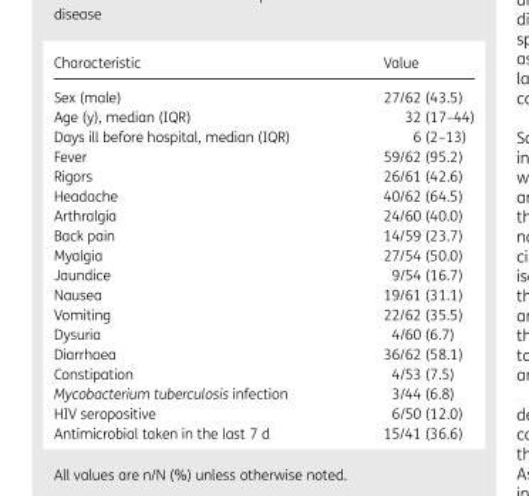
<table><thead><tr><td>Characteristic</td><td>Value</td></tr></thead><tbody><tr><td>Sex (male)</td><td>27/62 (43.5)</td></tr><tr><td>Age (y), median (IQR)</td><td>32 (17–44)</td></tr><tr><td>Days ill before hospital, median (IQR)</td><td>6 (2–13)</td></tr><tr><td>Fever</td><td>59/62 (95.2)</td></tr><tr><td>Rigors</td><td>26/61 (42.6)</td></tr><tr><td>Headache</td><td>40/62 (64.5)</td></tr><tr><td>Arthralgia</td><td>24/60 (40.0)</td></tr><tr><td>Back pain</td><td>14/59 (23.7)</td></tr><tr><td>Myalgia</td><td>27/54 (50.0)</td></tr><tr><td>Jaundice</td><td>9/54 (16.7)</td></tr><tr><td>Nausea</td><td>19/61 (31.1)</td></tr><tr><td>Vomiting</td><td>22/62 (35.5)</td></tr><tr><td>Dysuria</td><td>4/60 (6.7)</td></tr><tr><td>Diarrhoea</td><td>36/62 (58.1)</td></tr><tr><td>Constipation</td><td>4/53 (7.5)</td></tr><tr><td>Mycobacterium tuberculosis infection</td><td>3/44 (6.8)</td></tr><tr><td>HIV seropositive</td><td>6/50 (12.0)</td></tr><tr><td>Antimicrobial taken in the last 7 d</td><td>15/41 (36.6)</td></tr></tbody></table>